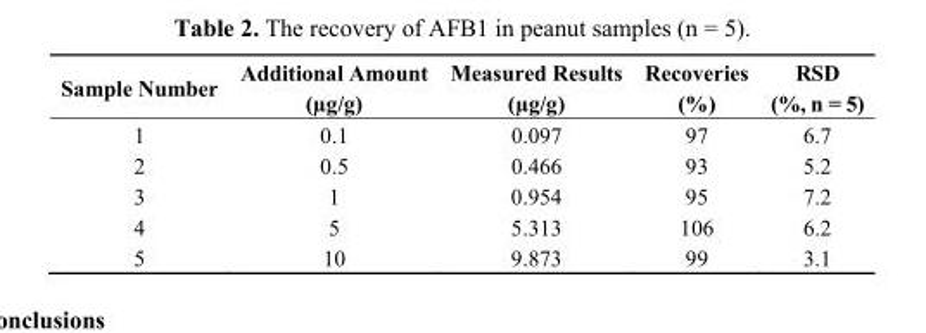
<table><thead><tr><td>Sample Number</td><td>Additional Amount (µg/g)</td><td>Measured Results (µg/g)</td><td>Recoveries (%)</td><td>RSD (%, n = 5)</td></tr></thead><tbody><tr><td>1</td><td>0.1</td><td>0.097</td><td>97</td><td>6.7</td></tr><tr><td>2</td><td>0.5</td><td>0.466</td><td>93</td><td>5.2</td></tr><tr><td>3</td><td>1</td><td>0.954</td><td>95</td><td>7.2</td></tr><tr><td>4</td><td>5</td><td>5.313</td><td>106</td><td>6.2</td></tr><tr><td>5</td><td>10</td><td>9.873</td><td>99</td><td>3.1</td></tr></tbody></table>